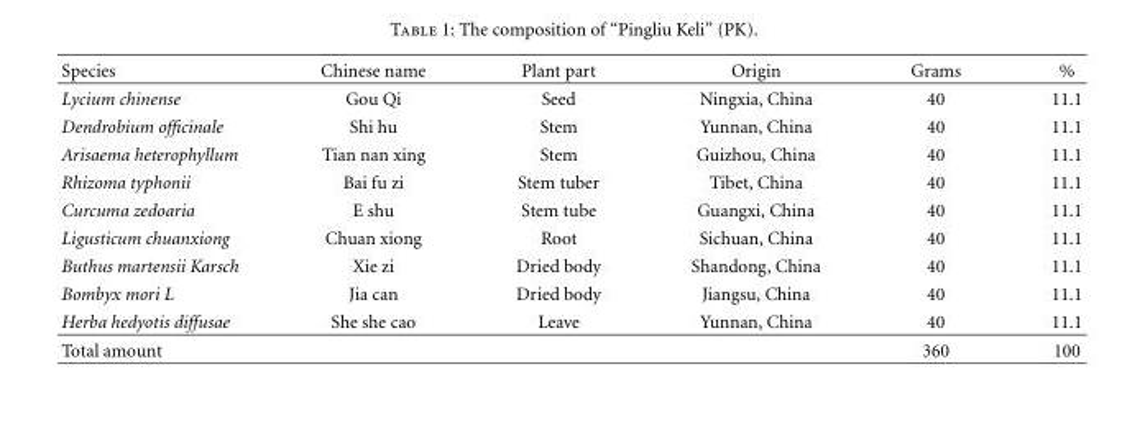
<table><thead><tr><td>Species</td><td>Chinese name</td><td>Plant part</td><td>Origin</td><td>Grams</td><td>%</td></tr></thead><tbody><tr><td>Lycium chinense</td><td>Gou Qi</td><td>Seed</td><td>Ningxia, China</td><td>40</td><td>11.1</td></tr><tr><td>Dendrobium officinale</td><td>Shi hu</td><td>Stem</td><td>Yunnan, China</td><td>40</td><td>11.1</td></tr><tr><td>Arisaema heterophyllum</td><td>Tian nan xing</td><td>Stem</td><td>Guizhou, China</td><td>40</td><td>11.1</td></tr><tr><td>Rhizoma typhonii</td><td>Bai fu zi</td><td>Stem tuber</td><td>Tibet, China</td><td>40</td><td>11.1</td></tr><tr><td>Curcuma zedoaria</td><td>E shu</td><td>Stem tube</td><td>Guangxi, China</td><td>40</td><td>11.1</td></tr><tr><td>Ligusticum chuanxiong</td><td>Chuan xiong</td><td>Root</td><td>Sichuan, China</td><td>40</td><td>11.1</td></tr><tr><td>Buthus martensii Karsch</td><td>Xie zi</td><td>Dried body</td><td>Shandong, China</td><td>40</td><td>11.1</td></tr><tr><td>Bombyx mori L</td><td>Jia can</td><td>Dried body</td><td>Jiangsu, China</td><td>40</td><td>11.1</td></tr><tr><td>Herba hedyotis diffusae</td><td>She she cao</td><td>Leave</td><td>Yunnan, China</td><td>40</td><td>11.1</td></tr><tr><td>Total amount</td><td></td><td></td><td></td><td>360</td><td>100</td></tr></tbody></table>